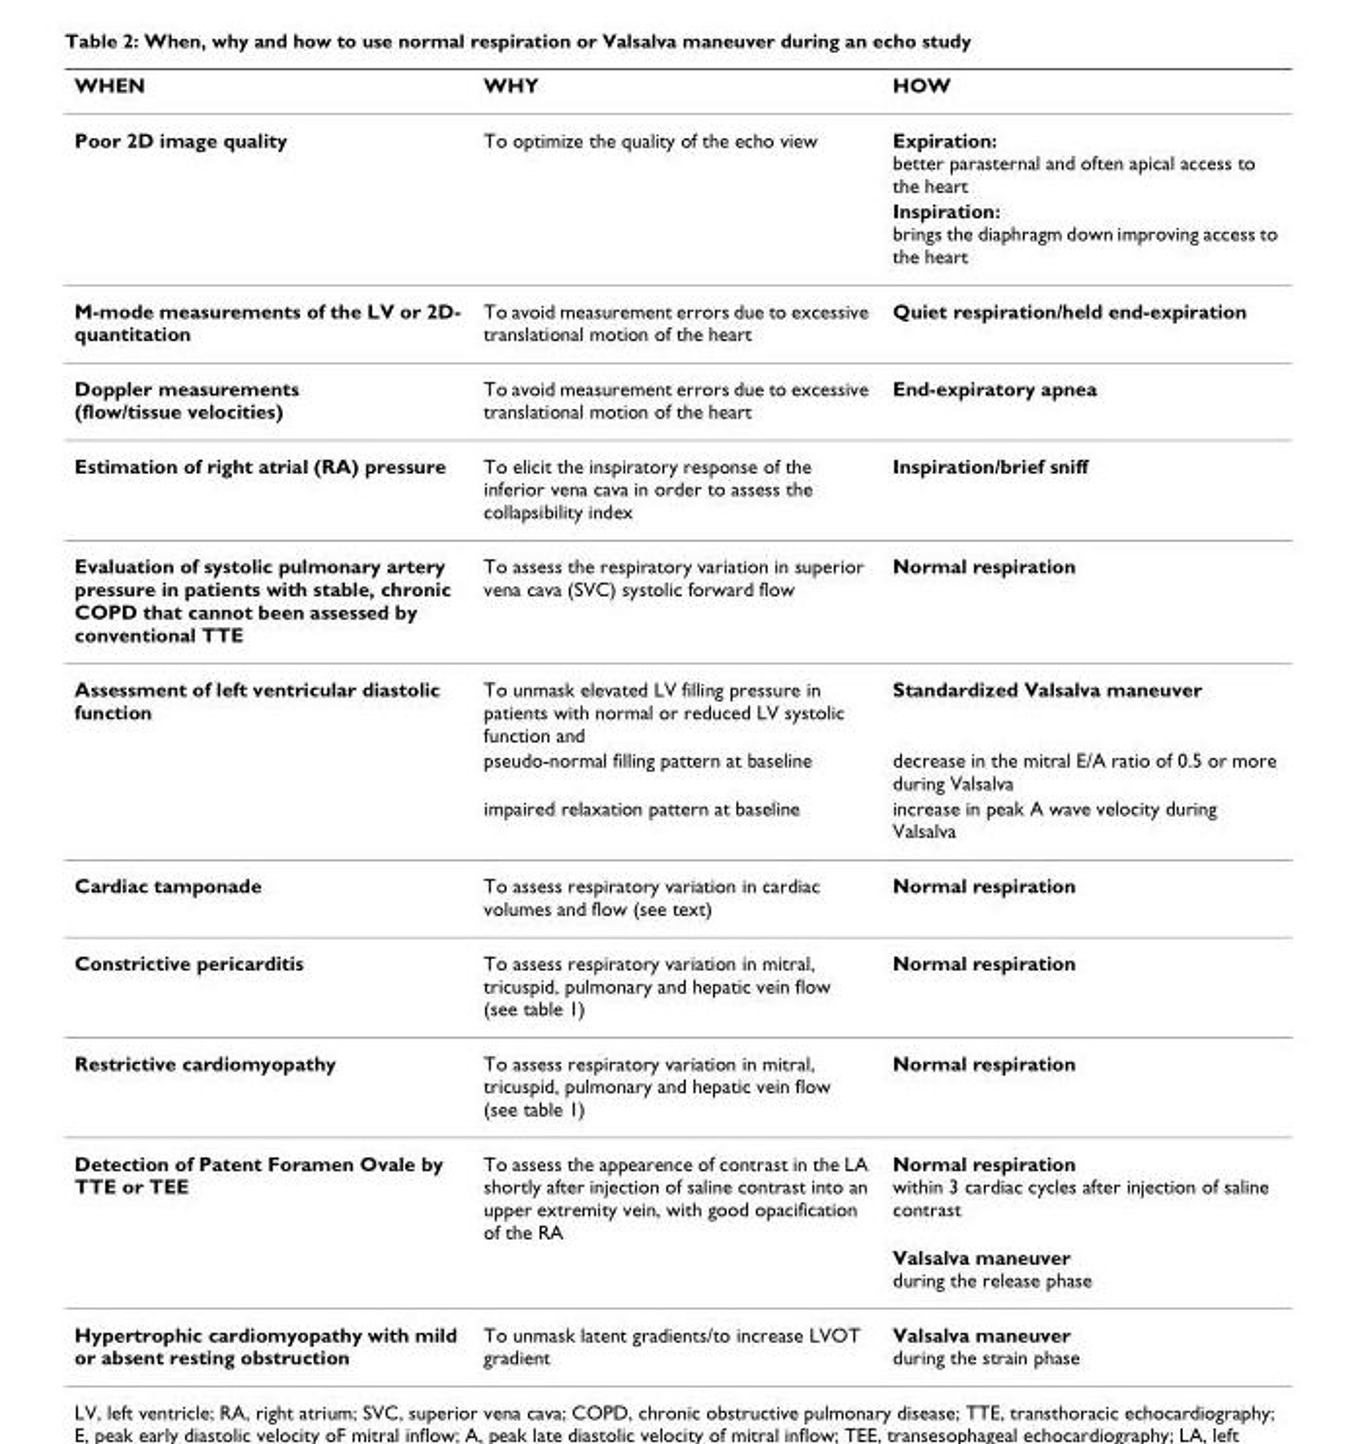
<table><thead><tr><td>WHEN</td><td>WHY</td><td>HOW</td></tr></thead><tbody><tr><td rowspan="2">Poor 2D image quality</td><td>To optimize the quality of the echo view</td><td>Expiration: better parasternal and often apical access to the heart</td></tr><tr><td></td><td>Inspiration: brings the diaphragm down improving access to the heart</td></tr><tr><td>M-mode measurements of the LV or 2D- quantitation</td><td>To avoid measurement errors due to excessive translational motion of the heart</td><td>Quiet respiration/held end-expiration</td></tr><tr><td>Doppler measurements (flow/tissue velocities)</td><td>To avoid measurement errors due to excessive translational motion of the heart</td><td>End-expiratory apnea</td></tr><tr><td>Estimation of right atrial (RA) pressure</td><td>To elicit the inspiratory response of the inferior vena cava in order to assess the collapsibility index</td><td>Inspiration/brief sniff</td></tr><tr><td>Evaluation of systolic pulmonary artery pressure in patients with stable, chronic COPD that cannot been assessed by conventional TTE</td><td>To assess the respiratory variation in superior vena cava (SVC) systolic forward flow</td><td>Normal respiration</td></tr><tr><td rowspan="3">Assessment of left ventricular diastolic function</td><td>To unmask elevated LV filling pressure in patients with normal or reduced LV systolic function and</td><td>Standardized Valsalva maneuver</td></tr><tr><td>pseudo-normal filling pattern at baseline</td><td>decrease in the mitral E/A ratio of 0.5 or more during Valsalva</td></tr><tr><td>impaired relaxation pattern at baseline</td><td>increase in peak A wave velocity during Valsalva</td></tr><tr><td>Cardiac tamponade</td><td>To assess respiratory variation in cardiac volumes and flow (see text)</td><td>Normal respiration</td></tr><tr><td>Constrictive pericarditis</td><td>To assess respiratory variation in mitral, tricuspid, pulmonary and hepatic vein flow (see table 1)</td><td>Normal respiration</td></tr><tr><td>Restrictive cardiomyopathy</td><td>To assess respiratory variation in mitral, tricuspid, pulmonary and hepatic vein flow (see table 1)</td><td>Normal respiration</td></tr><tr><td rowspan="2">Detection of Patent Foramen Ovale by TTE or TEE</td><td>To assess the appearence of contrast in the LA shortly after injection of saline contrast into an upper extremity vein, with good opacification of the RA</td><td>Normal respiration within 3 cardiac cycles after injection of saline contrast</td></tr><tr><td></td><td>Valsalva maneuver during the release phase</td></tr><tr><td>Hypertrophic cardiomyopathy with mild or absent resting obstruction</td><td>To unmask latent gradients/to increase LVOT gradient</td><td>Valsalva maneuver during the strain phase</td></tr></tbody></table>